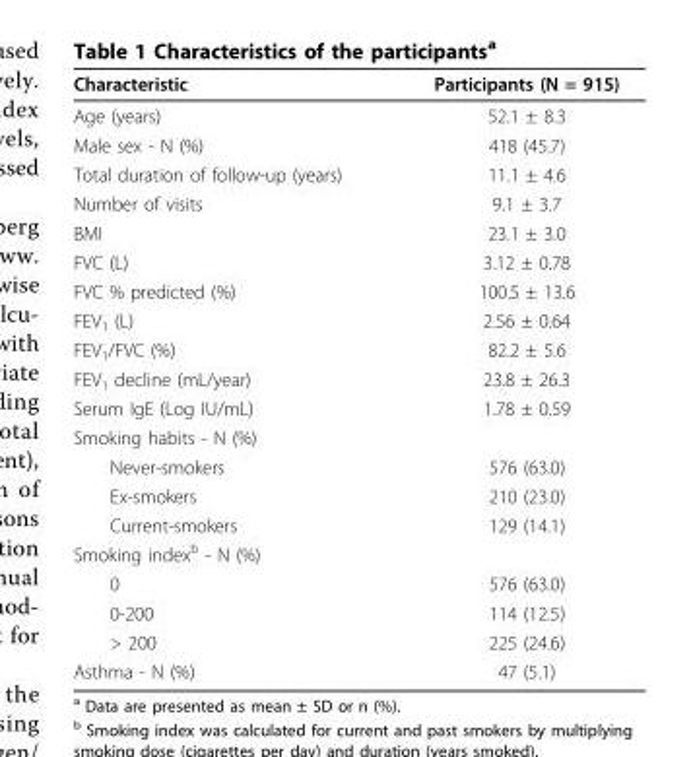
<table><thead><tr><td>Characteristic</td><td>Participants (N = 915)</td></tr></thead><tbody><tr><td>Age (years)</td><td>52.1 ± 8.3</td></tr><tr><td>Male sex - N (%)</td><td>418 (45.7)</td></tr><tr><td>Total duration of follow-up (years)</td><td>11.1 ± 4.6</td></tr><tr><td>Number of visits</td><td>9.1 ± 3.7</td></tr><tr><td>BMI</td><td>23.1 ± 3.0</td></tr><tr><td>FVC (L)</td><td>3.12 ± 0.78</td></tr><tr><td>FVC % predicted (%)</td><td>100.5 ± 13.6</td></tr><tr><td>FEV<sub>1</sub> (L)</td><td>2.56 ± 0.64</td></tr><tr><td>FEV<sub>1</sub>/FVC (%)</td><td>82.2 ± 5.6</td></tr><tr><td>FEV<sub>1</sub> decline (mL/year)</td><td>23.8 ± 26.3</td></tr><tr><td>Serum IgE (Log IU/mL)</td><td>1.78 ± 0.59</td></tr><tr><td colspan="2">Smoking habits - N (%)</td></tr><tr><td>Never-smokers</td><td>576 (63.0)</td></tr><tr><td>Ex-smokers</td><td>210 (23.0)</td></tr><tr><td>Current-smokers</td><td>129 (14.1)</td></tr><tr><td colspan="2">Smoking index<sup>b</sup> - N (%)</td></tr><tr><td>0</td><td>576 (63.0)</td></tr><tr><td>0-200</td><td>114 (12.5)</td></tr><tr><td>&gt; 200</td><td>225 (24.6)</td></tr><tr><td>Asthma - N (%)</td><td>47 (5.1)</td></tr></tbody></table>